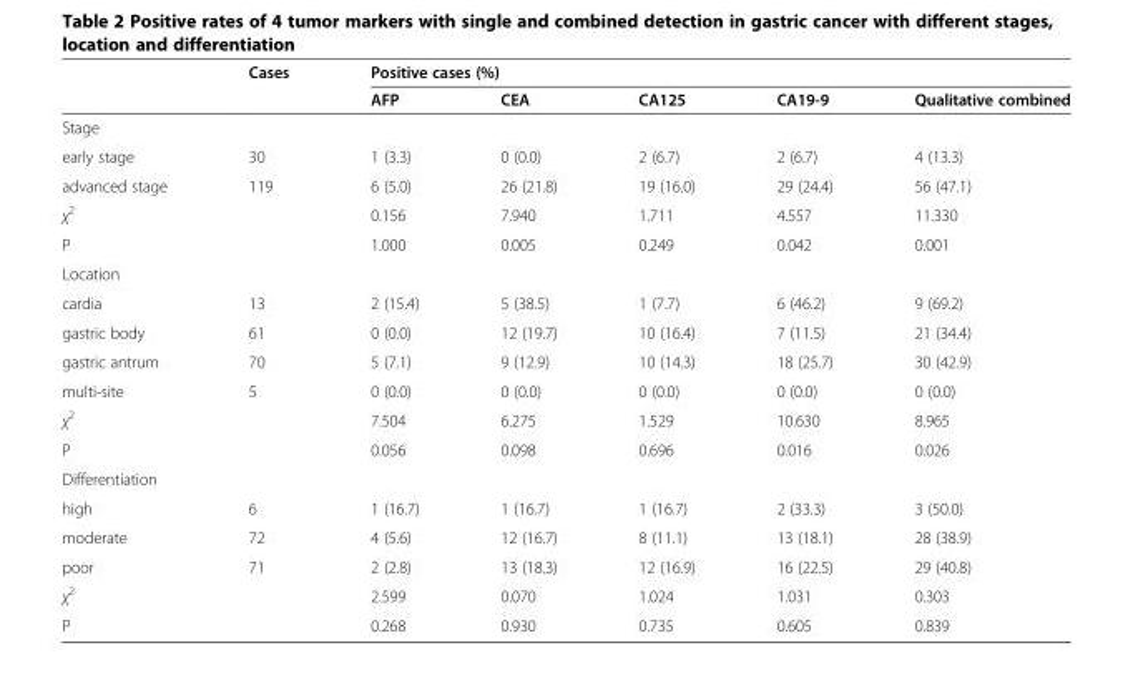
<table><thead><tr><td rowspan="2"></td><td rowspan="2">Cases</td><td colspan="5">Positive cases (%)</td></tr><tr><td>AFP</td><td>CEA</td><td>CA125</td><td>CA19-9</td><td>Qualitative combined</td></tr></thead><tbody><tr><td colspan="7">Stage</td></tr><tr><td>early stage</td><td>30</td><td>1 (3.3)</td><td>0 (0.0)</td><td>2 (6.7)</td><td>2 (6.7)</td><td>4 (13.3)</td></tr><tr><td>advanced stage</td><td>119</td><td>6 (5.0)</td><td>26 (21.8)</td><td>19 (16.0)</td><td>29 (24.4)</td><td>56 (47.1)</td></tr><tr><td>χ<sup>2</sup></td><td></td><td>0.156</td><td>7.940</td><td>1.711</td><td>4.557</td><td>11.330</td></tr><tr><td>P</td><td></td><td>1.000</td><td>0.005</td><td>0.249</td><td>0.042</td><td>0.001</td></tr><tr><td colspan="7">Location</td></tr><tr><td>cardia</td><td>13</td><td>2 (15.4)</td><td>5 (38.5)</td><td>1 (7.7)</td><td>6 (46.2)</td><td>9 (69.2)</td></tr><tr><td>gastric body</td><td>61</td><td>0 (0.0)</td><td>12 (19.7)</td><td>10 (16.4)</td><td>7 (11.5)</td><td>21 (34.4)</td></tr><tr><td>gastric antrum</td><td>70</td><td>5 (7.1)</td><td>9 (12.9)</td><td>10 (14.3)</td><td>18 (25.7)</td><td>30 (42.9)</td></tr><tr><td>multi-site</td><td>5</td><td>0 (0.0)</td><td>0 (0.0)</td><td>0 (0.0)</td><td>0 (0.0)</td><td>0 (0.0)</td></tr><tr><td>χ<sup>2</sup></td><td></td><td>7.504</td><td>6.275</td><td>1.529</td><td>10.630</td><td>8.965</td></tr><tr><td>P</td><td></td><td>0.056</td><td>0.098</td><td>0.696</td><td>0.016</td><td>0.026</td></tr><tr><td colspan="7">Differentiation</td></tr><tr><td>high</td><td>6</td><td>1 (16.7)</td><td>1 (16.7)</td><td>1 (16.7)</td><td>2 (33.3)</td><td>3 (50.0)</td></tr><tr><td>moderate</td><td>72</td><td>4 (5.6)</td><td>12 (16.7)</td><td>8 (11.1)</td><td>13 (18.1)</td><td>28 (38.9)</td></tr><tr><td>poor</td><td>71</td><td>2 (2.8)</td><td>13 (18.3)</td><td>12 (16.9)</td><td>16 (22.5)</td><td>29 (40.8)</td></tr><tr><td>χ<sup>2</sup></td><td></td><td>2.599</td><td>0.070</td><td>1.024</td><td>1.031</td><td>0.303</td></tr><tr><td>P</td><td></td><td>0.268</td><td>0.930</td><td>0.735</td><td>0.605</td><td>0.839</td></tr></tbody></table>